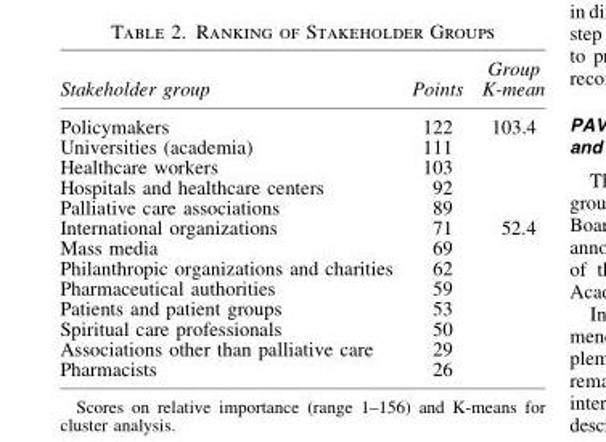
<table><thead><tr><td>Stakeholder group</td><td>Points</td><td>Group K-mean</td></tr></thead><tbody><tr><td>Policymakers</td><td>122</td><td rowspan="5">103.4</td></tr><tr><td>Universities (academia)</td><td>111</td></tr><tr><td>Healthcare workers</td><td>103</td></tr><tr><td>Hospitals and healthcare centers</td><td>92</td></tr><tr><td>Palliative care associations</td><td>89</td></tr><tr><td>International organizations</td><td>71</td><td rowspan="8">52.4</td></tr><tr><td>Mass media</td><td>69</td></tr><tr><td>Philanthropic organizations and charities</td><td>62</td></tr><tr><td>Pharmaceutical authorities</td><td>59</td></tr><tr><td>Patients and patient groups</td><td>53</td></tr><tr><td>Spiritual care professionals</td><td>50</td></tr><tr><td>Associations other than palliative care</td><td>29</td></tr><tr><td>Pharmacists</td><td>26</td></tr></tbody></table>